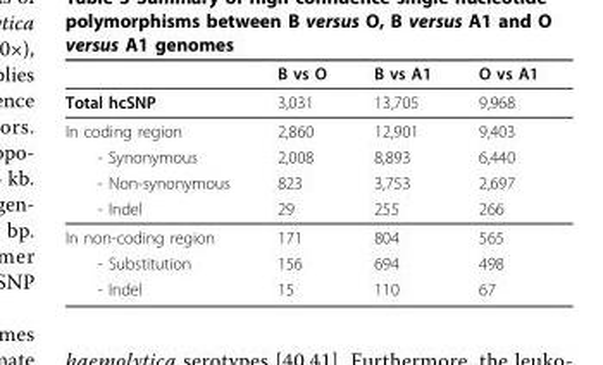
<table><thead><tr><td></td><td>B vs O</td><td>B vs A1</td><td>O vs A1</td></tr></thead><tbody><tr><td>Total hcSNP</td><td>3,031</td><td>13,705</td><td>9,968</td></tr><tr><td>In coding region</td><td>2,860</td><td>12,901</td><td>9,403</td></tr><tr><td>- Synonymous</td><td>2,008</td><td>8,893</td><td>6,440</td></tr><tr><td>- Non-synonymous</td><td>823</td><td>3,753</td><td>2,697</td></tr><tr><td>- Indel</td><td>29</td><td>255</td><td>266</td></tr><tr><td>In non-coding region</td><td>171</td><td>804</td><td>565</td></tr><tr><td>- Substitution</td><td>156</td><td>694</td><td>498</td></tr><tr><td>- Indel</td><td>15</td><td>110</td><td>67</td></tr></tbody></table>